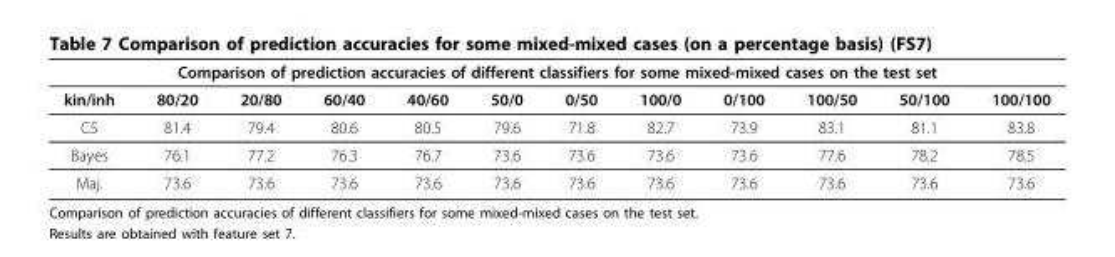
<table><thead><tr><td colspan="12">Comparison of prediction accuracies of different classifiers for some mixed-mixed cases on the test set</td></tr><tr><td>kin/inh</td><td>80/20</td><td>20/80</td><td>60/40</td><td>40/60</td><td>50/0</td><td>0/50</td><td>100/0</td><td>0/100</td><td>100/50</td><td>50/100</td><td>100/100</td></tr></thead><tbody><tr><td>C5</td><td>81.4</td><td>79.4</td><td>80.6</td><td>80.5</td><td>79.6</td><td>71.8</td><td>82.7</td><td>73.9</td><td>83.1</td><td>81.1</td><td>83.8</td></tr><tr><td>Bayes</td><td>76.1</td><td>77.2</td><td>76.3</td><td>76.7</td><td>73.6</td><td>73.6</td><td>73.6</td><td>73.6</td><td>77.6</td><td>78.2</td><td>78.5</td></tr><tr><td>Maj.</td><td>73.6</td><td>73.6</td><td>73.6</td><td>73.6</td><td>73.6</td><td>73.6</td><td>73.6</td><td>73.6</td><td>73.6</td><td>73.6</td><td>73.6</td></tr></tbody></table>